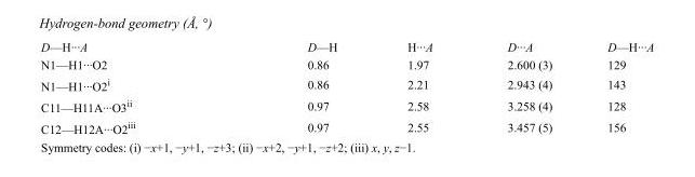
<table><tbody><tr><td>D—H···A</td><td>D—H</td><td>H···A</td><td>D···A</td><td>D—H···A</td></tr><tr><td>N1—H1···O2</td><td>0.86</td><td>1.97</td><td>2.600 (3)</td><td>129</td></tr><tr><td>N1—H1···O2<sup>i</sup></td><td>0.86</td><td>2.21</td><td>2.943 (4)</td><td>143</td></tr><tr><td>C11—H11A···O3<sup>ii</sup></td><td>0.97</td><td>2.58</td><td>3.258 (4)</td><td>128</td></tr><tr><td>C12—H12A···O2<sup>iii</sup></td><td>0.97</td><td>2.55</td><td>3.457 (5)</td><td>156</td></tr></tbody></table>